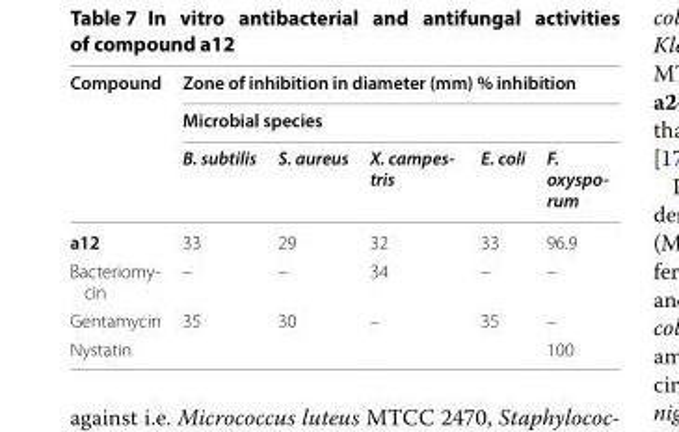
<table><thead><tr><td rowspan="3">Compound</td><td rowspan="2" colspan="5">Zone of inhibition in diameter (mm) % inhibition Microbial species</td></tr><tr></tr><tr><td>B. subtilis</td><td>S. aureus</td><td>X. campes- tris</td><td>E. coli</td><td>F. oxyspo- rum</td></tr></thead><tbody><tr><td>a12</td><td>33</td><td>29</td><td>32</td><td>33</td><td>96.9</td></tr><tr><td>Bacteriomy- cin</td><td>–</td><td>–</td><td>34</td><td>–</td><td>–</td></tr><tr><td>Gentamycin</td><td>35</td><td>30</td><td>–</td><td>35</td><td>–</td></tr><tr><td>Nystatin</td><td></td><td></td><td></td><td></td><td>100</td></tr></tbody></table>